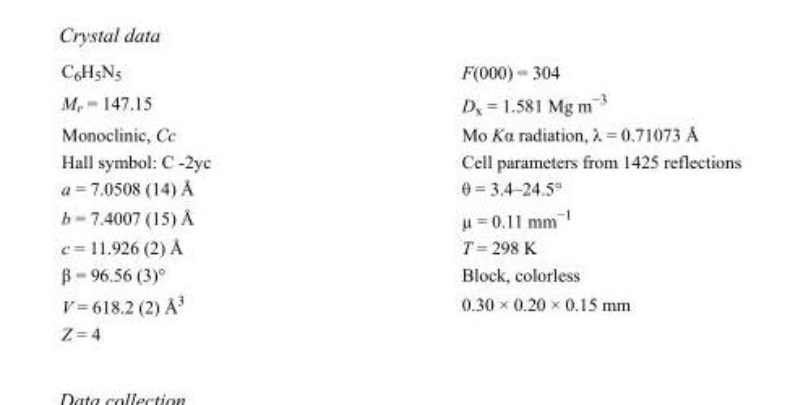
<table><tbody><tr><td>C<sub>6</sub>H<sub>5</sub>N<sub>5</sub></td><td>F(000) = 304</td></tr><tr><td>M<sub>r</sub> = 147.15</td><td>D<sub>x</sub> = 1.581 Mg m<sup>−3</sup></td></tr><tr><td>Monoclinic, Cc</td><td>Mo Kα radiation, λ = 0.71073 Å</td></tr><tr><td>Hall symbol: C -2yc</td><td>Cell parameters from 1425 reflections</td></tr><tr><td>a = 7.0508 (14) Å</td><td>θ = 3.4–24.5°</td></tr><tr><td>b = 7.4007 (15) Å</td><td>µ = 0.11 mm<sup>−1</sup></td></tr><tr><td>c = 11.926 (2) Å</td><td>T = 298 K</td></tr><tr><td>β = 96.56 (3)°</td><td>Block, colorless</td></tr><tr><td>V = 618.2 (2) Å<sup>3</sup></td><td>0.30 × 0.20 × 0.15 mm</td></tr><tr><td>Z = 4</td><td></td></tr></tbody></table>